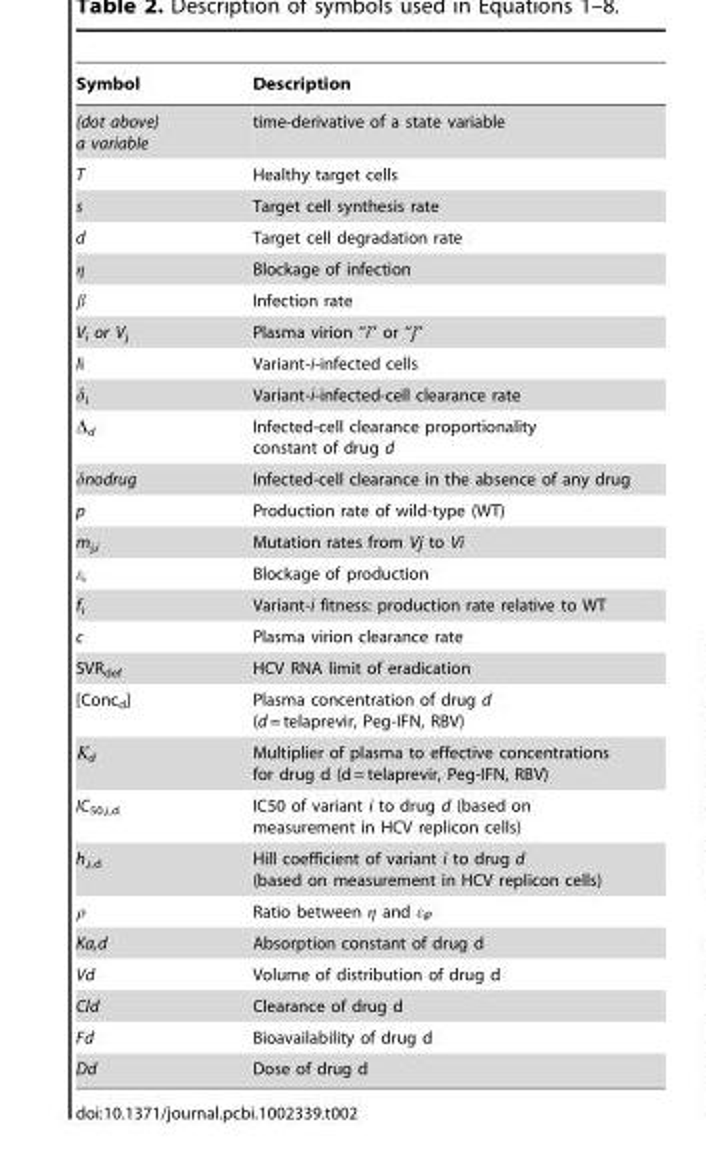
<table><thead><tr><td>Symbol</td><td>Description</td></tr></thead><tbody><tr><td>(dot above) a variable</td><td>time-derivative of a state variable</td></tr><tr><td>T</td><td>Healthy target cells</td></tr><tr><td>s</td><td>Target cell synthesis rate</td></tr><tr><td>d</td><td>Target cell degradation rate</td></tr><tr><td>η</td><td>Blockage of infection</td></tr><tr><td>β</td><td>Infection rate</td></tr><tr><td>V<sub>i</sub> or V<sub>j</sub></td><td>Plasma virion ‘‘i’’ or ‘‘j’’</td></tr><tr><td>Ii</td><td>Variant-i-infected cells</td></tr><tr><td>δ<sub>i</sub></td><td>Variant-i-infected-cell clearance rate</td></tr><tr><td>Δ<sub>d</sub></td><td>Infected-cell clearance proportionality constant of drug d</td></tr><tr><td>δnodrug</td><td>Infected-cell clearance in the absence of any drug</td></tr><tr><td>p</td><td>Production rate of wild-type (WT)</td></tr><tr><td>m<sub>j,i</sub></td><td>Mutation rates from Vj to Vi</td></tr><tr><td>ε<sub>i</sub></td><td>Blockage of production</td></tr><tr><td>f<sub>i</sub></td><td>Variant-i fitness: production rate relative to WT</td></tr><tr><td>c</td><td>Plasma virion clearance rate</td></tr><tr><td>SVR<sub>def</sub></td><td>HCV RNA limit of eradication</td></tr><tr><td>[Conc<sub>d</sub>]</td><td>Plasma concentration of drug d (d = telaprevir, Peg-IFN, RBV)</td></tr><tr><td>Kd</td><td>Multiplier of plasma to effective concentrations for drug d (d = telaprevir, Peg-IFN, RBV)</td></tr><tr><td>IC<sub>50,i,d</sub></td><td>IC50 of variant i to drug d (based on measurement in HCV replicon cells)</td></tr><tr><td>h<sub>,i,d</sub></td><td>Hill coefficient of variant i to drug d (based on measurement in HCV replicon cells)</td></tr><tr><td>ρ</td><td>Ratio between η and ε<sub>iP</sub></td></tr><tr><td>Ka,d</td><td>Absorption constant of drug d</td></tr><tr><td>Vd</td><td>Volume of distribution of drug d</td></tr><tr><td>Cld</td><td>Clearance of drug d</td></tr><tr><td>Fd</td><td>Bioavailability of drug d</td></tr><tr><td>Dd</td><td>Dose of drug d</td></tr></tbody></table>